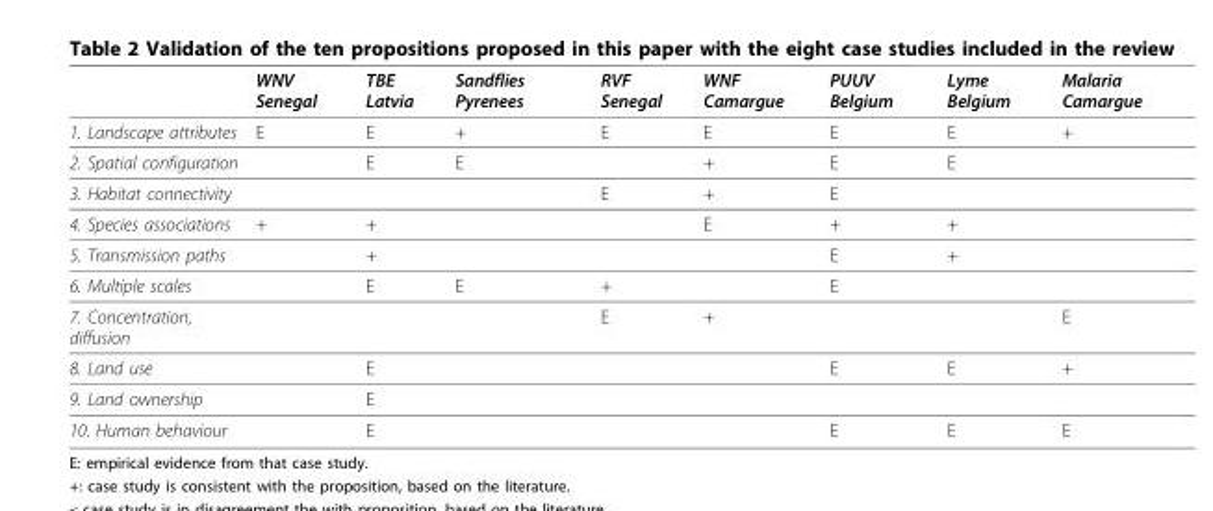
<table><thead><tr><td></td><td>WNV Senegal</td><td>TBE Latvia</td><td>Sandflies Pyrenees</td><td>RVF Senegal</td><td>WNF Camargue</td><td>PUUV Belgium</td><td>Lyme Belgium</td><td>Malaria Camargue</td></tr></thead><tbody><tr><td>1. Landscape attributes</td><td>E</td><td>E</td><td>+</td><td>E</td><td>E</td><td>E</td><td>E</td><td>+</td></tr><tr><td>2. Spatial configuration</td><td></td><td>E</td><td>E</td><td></td><td>+</td><td>E</td><td>E</td><td></td></tr><tr><td>3. Habitat connectivity</td><td></td><td></td><td></td><td>E</td><td>+</td><td>E</td><td></td><td></td></tr><tr><td>4. Species associations</td><td>+</td><td>+</td><td></td><td></td><td>E</td><td>+</td><td>+</td><td></td></tr><tr><td>5. Transmission paths</td><td></td><td>+</td><td></td><td></td><td></td><td>E</td><td>+</td><td></td></tr><tr><td>6. Multiple scales</td><td></td><td>E</td><td>E</td><td>+</td><td></td><td>E</td><td></td><td></td></tr><tr><td>7. Concentration, diffusion</td><td></td><td></td><td></td><td>E</td><td>+</td><td></td><td></td><td>E</td></tr><tr><td>8. Land use</td><td></td><td>E</td><td></td><td></td><td></td><td>E</td><td>E</td><td>+</td></tr><tr><td>9. Land ownership</td><td></td><td>E</td><td></td><td></td><td></td><td></td><td></td><td></td></tr><tr><td>10. Human behaviour</td><td></td><td>E</td><td></td><td></td><td></td><td>E</td><td>E</td><td>E</td></tr></tbody></table>